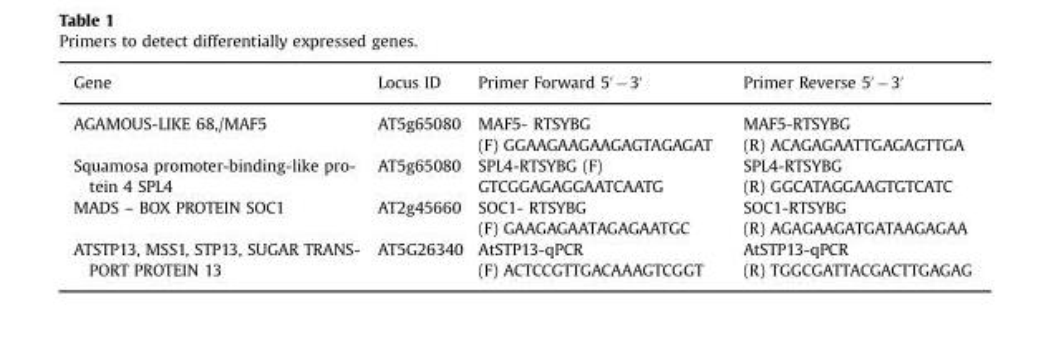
<table><thead><tr><td>Gene</td><td>Locus ID</td><td>Primer Forward 5′ −3′</td><td>Primer Reverse 5′ −3′</td></tr></thead><tbody><tr><td>AGAMOUS-LIKE 68,/MAF5</td><td>AT5g65080</td><td>MAF5- RTSYBG (F) GGAAGAAGAAGAGTAGAGAT</td><td>MAF5-RTSYBG (R) ACAGAGAATTGAGAGTTGA</td></tr><tr><td>Squamosa promoter-binding-like pro- tein 4 SPL4</td><td>AT5g65080</td><td>SPL4-RTSYBG (F) GTCGGAGAGGAATCAATG</td><td>SPL4-RTSYBG (R) GGCATAGGAAGTGTCATC</td></tr><tr><td>MADS – BOX PROTEIN SOC1</td><td>AT2g45660</td><td>SOC1- RTSYBG (F) GAAGAGAATAGAGAATGC</td><td>SOC1-RTSYBG (R) AGAGAAGATGATAAGAGAA</td></tr><tr><td>ATSTP13, MSS1, STP13, SUGAR TRANS- PORT PROTEIN 13</td><td>AT5G26340</td><td>AtSTP13-qPCR (F) ACTCCGTTGACAAAGTCGGT</td><td>AtSTP13-qPCR (R) TGGCGATTACGACTTGAGAG</td></tr></tbody></table>